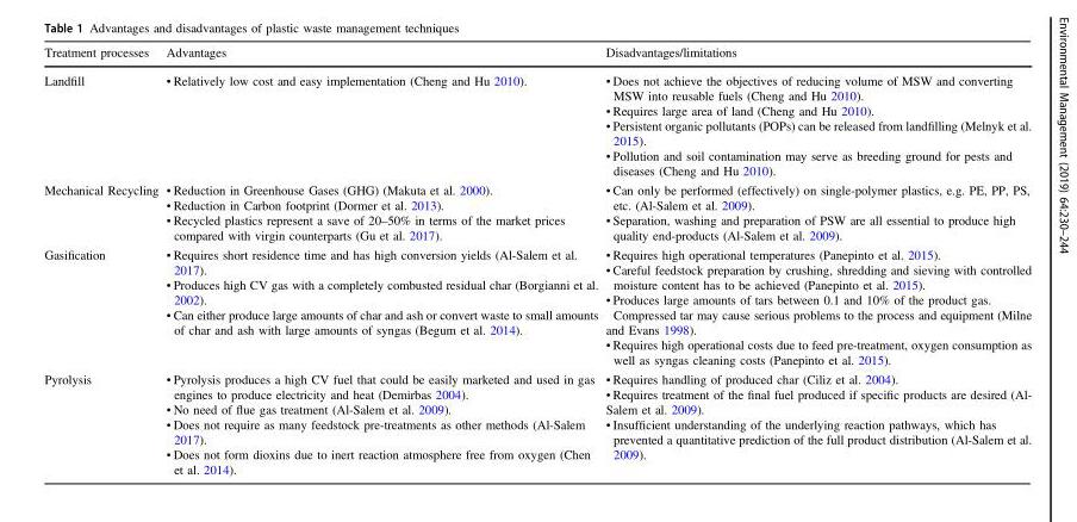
<table><thead><tr><td>Treatment processes</td><td>Advantages</td><td>Disadvantages/limitations</td></tr></thead><tbody><tr><td>Landfill</td><td>• Relatively low cost and easy implementation (Cheng and Hu 2010).</td><td>• Does not achieve the objectives of reducing volume of MSW and converting MSW into reusable fuels (Cheng and Hu 2010). • Requires large area of land (Cheng and Hu 2010). • Persistent organic pollutants (POPs) can be released from landfilling (Melnyk et al. 2015). • Pollution and soil contamination may serve as breeding ground for pests and diseases (Cheng and Hu 2010).</td></tr><tr><td>Mechanical Recycling</td><td>• Reduction in Greenhouse Gases (GHG) (Makuta et al. 2000). • Reduction in Carbon footprint (Dormer et al. 2013). • Recycled plastics represent a save of 20–50% in terms of the market prices compared with virgin counterparts (Gu et al. 2017).</td><td>• Can only be performed (effectively) on single-polymer plastics, e.g. PE, PP, PS, etc. (Al-Salem et al. 2009). • Separation, washing and preparation of PSW are all essential to produce high quality end-products (Al-Salem et al. 2009).</td></tr><tr><td>Gasification</td><td>• Requires short residence time and has high conversion yields (Al-Salem et al. 2017). • Produces high CV gas with a completely combusted residual char (Borgianni et al. 2002). • Can either produce large amounts of char and ash or convert waste to small amounts of char and ash with large amounts of syngas (Begum et al. 2014).</td><td>• Requires high operational temperatures (Panepinto et al. 2015). • Careful feedstock preparation by crushing, shredding and sieving with controlled moisture content has to be achieved (Panepinto et al. 2015). • Produces large amounts of tars between 0.1 and 10% of the product gas. Compressed tar may cause serious problems to the process and equipment (Milne and Evans 1998). • Requires high operational costs due to feed pre-treatment, oxygen consumption as well as syngas cleaning costs (Panepinto et al. 2015).</td></tr><tr><td>Pyrolysis</td><td>• Pyrolysis produces a high CV fuel that could be easily marketed and used in gas engines to produce electricity and heat (Demirbas 2004). • No need of flue gas treatment (Al-Salem et al. 2009). • Does not require as many feedstock pre-treatments as other methods (Al-Salem 2017). • Does not form dioxins due to inert reaction atmosphere free from oxygen (Chen et al. 2014).</td><td>• Requires handling of produced char (Ciliz et al. 2004). • Requires treatment of the final fuel produced if specific products are desired (Al- Salem et al. 2009). • Insufficient understanding of the underlying reaction pathways, which has prevented a quantitative prediction of the full product distribution (Al-Salem et al. 2009).</td></tr></tbody></table>